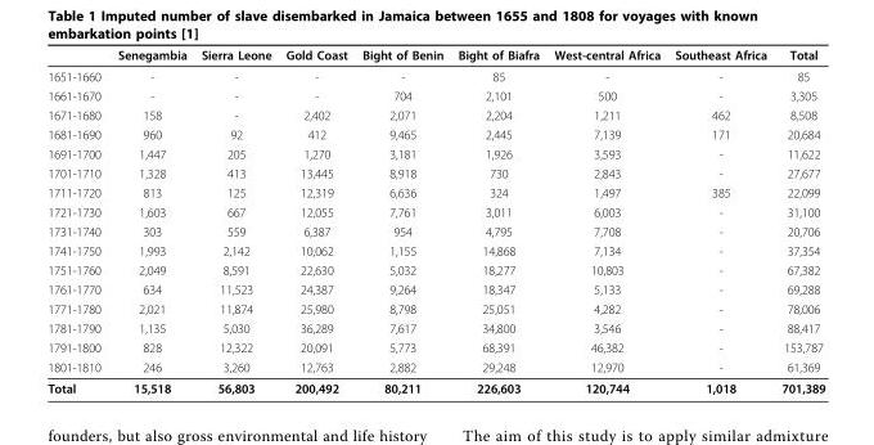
<table><thead><tr><td></td><td>Senegambia</td><td>Sierra Leone</td><td>Gold Coast</td><td>Bight of Benin</td><td>Bight of Biafra</td><td>West-central Africa</td><td>Southeast Africa</td><td>Total</td></tr></thead><tbody><tr><td>1651-1660</td><td>-</td><td>-</td><td>-</td><td>-</td><td>85</td><td>-</td><td>-</td><td>85</td></tr><tr><td>1661-1670</td><td>-</td><td>-</td><td>-</td><td>704</td><td>2,101</td><td>500</td><td>-</td><td>3,305</td></tr><tr><td>1671-1680</td><td>158</td><td>-</td><td>2,402</td><td>2,071</td><td>2,204</td><td>1,211</td><td>462</td><td>8,508</td></tr><tr><td>1681-1690</td><td>960</td><td>92</td><td>412</td><td>9,465</td><td>2,445</td><td>7,139</td><td>171</td><td>20,684</td></tr><tr><td>1691-1700</td><td>1,447</td><td>205</td><td>1,270</td><td>3,181</td><td>1,926</td><td>3,593</td><td>-</td><td>11,622</td></tr><tr><td>1701-1710</td><td>1,328</td><td>413</td><td>13,445</td><td>8,918</td><td>730</td><td>2,843</td><td>-</td><td>27,677</td></tr><tr><td>1711-1720</td><td>813</td><td>125</td><td>12,319</td><td>6,636</td><td>324</td><td>1,497</td><td>385</td><td>22,099</td></tr><tr><td>1721-1730</td><td>1,603</td><td>667</td><td>12,055</td><td>7,761</td><td>3,011</td><td>6,003</td><td>-</td><td>31,100</td></tr><tr><td>1731-1740</td><td>303</td><td>559</td><td>6,387</td><td>954</td><td>4,795</td><td>7,708</td><td>-</td><td>20,706</td></tr><tr><td>1741-1750</td><td>1,993</td><td>2,142</td><td>10,062</td><td>1,155</td><td>14,868</td><td>7,134</td><td>-</td><td>37,354</td></tr><tr><td>1751-1760</td><td>2,049</td><td>8,591</td><td>22,630</td><td>5,032</td><td>18,277</td><td>10,803</td><td>-</td><td>67,382</td></tr><tr><td>1761-1770</td><td>634</td><td>11,523</td><td>24,387</td><td>9,264</td><td>18,347</td><td>5,133</td><td>-</td><td>69,288</td></tr><tr><td>1771-1780</td><td>2,021</td><td>11,874</td><td>25,980</td><td>8,798</td><td>25,051</td><td>4,282</td><td>-</td><td>78,006</td></tr><tr><td>1781-1790</td><td>1,135</td><td>5,030</td><td>36,289</td><td>7,617</td><td>34,800</td><td>3,546</td><td>-</td><td>88,417</td></tr><tr><td>1791-1800</td><td>828</td><td>12,322</td><td>20,091</td><td>5,773</td><td>68,391</td><td>46,382</td><td>-</td><td>153,787</td></tr><tr><td>1801-1810</td><td>246</td><td>3,260</td><td>12,763</td><td>2,882</td><td>29,248</td><td>12,970</td><td>-</td><td>61,369</td></tr><tr><td>Total</td><td>15,518</td><td>56,803</td><td>200,492</td><td>80,211</td><td>226,603</td><td>120,744</td><td>1,018</td><td>701,389</td></tr></tbody></table>